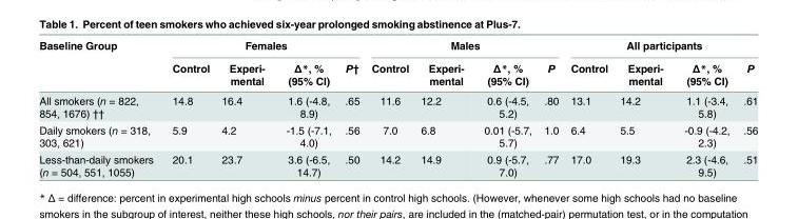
<table><thead><tr><td rowspan="2">Baseline Group</td><td colspan="4">Females</td><td colspan="4">Males</td><td colspan="4">All participants</td></tr><tr><td>Control</td><td>Experi- mental</td><td>Δ*, % (95% CI)</td><td>P†</td><td>Control</td><td>Experi- mental</td><td>Δ*, % (95% CI)</td><td>P</td><td>Control</td><td>Experi- mental</td><td>Δ*, % (95% CI)</td><td>P</td></tr></thead><tbody><tr><td>All smokers (n = 822, 854, 1676) ††</td><td>14.8</td><td>16.4</td><td>1.6 (-4.8, 8.9)</td><td>.65</td><td>11.6</td><td>12.2</td><td>0.6 (-4.5, 5.2)</td><td>.80</td><td>13.1</td><td>14.2</td><td>1.1 (-3.4, 5.8)</td><td>.61</td></tr><tr><td>Daily smokers (n = 318, 303, 621)</td><td>5.9</td><td>4.2</td><td>-1.5 (-7.1, 4.0)</td><td>.56</td><td>7.0</td><td>6.8</td><td>0.01 (-5.7, 5.7)</td><td>1.0</td><td>6.4</td><td>5.5</td><td>-0.9 (-4.2, 2.3)</td><td>.56</td></tr><tr><td>Less-than-daily smokers (n = 504, 551, 1055)</td><td>20.1</td><td>23.7</td><td>3.6 (-6.5, 14.7)</td><td>.50</td><td>14.2</td><td>14.9</td><td>0.9 (-5.7, 7.0)</td><td>.77</td><td>17.0</td><td>19.3</td><td>2.3 (-4.6, 9.5)</td><td>.51</td></tr></tbody></table>